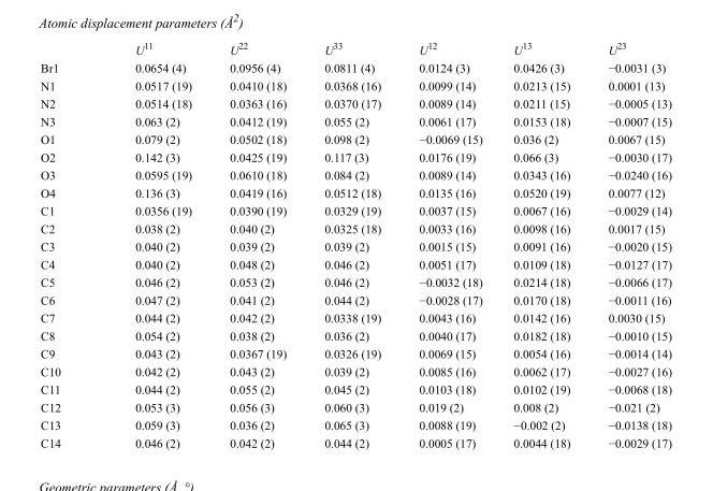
<table><thead><tr><td></td><td>U<sup>11</sup></td><td>U<sup>22</sup></td><td>U<sup>33</sup></td><td>U<sup>12</sup></td><td>U<sup>13</sup></td><td>U<sup>23</sup></td></tr></thead><tbody><tr><td>Br1</td><td>0.0654 (4)</td><td>0.0956 (4)</td><td>0.0811 (4)</td><td>0.0124 (3)</td><td>0.0426 (3)</td><td>−0.0031 (3)</td></tr><tr><td>N1</td><td>0.0517 (19)</td><td>0.0410 (18)</td><td>0.0368 (16)</td><td>0.0099 (14)</td><td>0.0213 (15)</td><td>0.0001 (13)</td></tr><tr><td>N2</td><td>0.0514 (18)</td><td>0.0363 (16)</td><td>0.0370 (17)</td><td>0.0089 (14)</td><td>0.0211 (15)</td><td>−0.0005 (13)</td></tr><tr><td>N3</td><td>0.063 (2)</td><td>0.0412 (19)</td><td>0.055 (2)</td><td>0.0061 (17)</td><td>0.0153 (18)</td><td>−0.0007 (15)</td></tr><tr><td>O1</td><td>0.079 (2)</td><td>0.0502 (18)</td><td>0.098 (2)</td><td>−0.0069 (15)</td><td>0.036 (2)</td><td>0.0067 (15)</td></tr><tr><td>O2</td><td>0.142 (3)</td><td>0.0425 (19)</td><td>0.117 (3)</td><td>0.0176 (19)</td><td>0.066 (3)</td><td>−0.0030 (17)</td></tr><tr><td>O3</td><td>0.0595 (19)</td><td>0.0610 (18)</td><td>0.084 (2)</td><td>0.0089 (14)</td><td>0.0343 (16)</td><td>−0.0240 (16)</td></tr><tr><td>O4</td><td>0.136 (3)</td><td>0.0419 (16)</td><td>0.0512 (18)</td><td>0.0135 (16)</td><td>0.0520 (19)</td><td>0.0077 (12)</td></tr><tr><td>C1</td><td>0.0356 (19)</td><td>0.0390 (19)</td><td>0.0329 (19)</td><td>0.0037 (15)</td><td>0.0067 (16)</td><td>−0.0029 (14)</td></tr><tr><td>C2</td><td>0.038 (2)</td><td>0.040 (2)</td><td>0.0325 (18)</td><td>0.0033 (16)</td><td>0.0098 (16)</td><td>0.0017 (15)</td></tr><tr><td>C3</td><td>0.040 (2)</td><td>0.039 (2)</td><td>0.039 (2)</td><td>0.0015 (15)</td><td>0.0091 (16)</td><td>−0.0020 (15)</td></tr><tr><td>C4</td><td>0.040 (2)</td><td>0.048 (2)</td><td>0.046 (2)</td><td>0.0051 (17)</td><td>0.0109 (18)</td><td>−0.0127 (17)</td></tr><tr><td>C5</td><td>0.046 (2)</td><td>0.053 (2)</td><td>0.046 (2)</td><td>−0.0032 (18)</td><td>0.0214 (18)</td><td>−0.0066 (17)</td></tr><tr><td>C6</td><td>0.047 (2)</td><td>0.041 (2)</td><td>0.044 (2)</td><td>−0.0028 (17)</td><td>0.0170 (18)</td><td>−0.0011 (16)</td></tr><tr><td>C7</td><td>0.044 (2)</td><td>0.042 (2)</td><td>0.0338 (19)</td><td>0.0043 (16)</td><td>0.0142 (16)</td><td>0.0030 (15)</td></tr><tr><td>C8</td><td>0.054 (2)</td><td>0.038 (2)</td><td>0.036 (2)</td><td>0.0040 (17)</td><td>0.0182 (18)</td><td>−0.0010 (15)</td></tr><tr><td>C9</td><td>0.043 (2)</td><td>0.0367 (19)</td><td>0.0326 (19)</td><td>0.0069 (15)</td><td>0.0054 (16)</td><td>−0.0014 (14)</td></tr><tr><td>C10</td><td>0.042 (2)</td><td>0.043 (2)</td><td>0.039 (2)</td><td>0.0085 (16)</td><td>0.0062 (17)</td><td>−0.0027 (16)</td></tr><tr><td>C11</td><td>0.044 (2)</td><td>0.055 (2)</td><td>0.045 (2)</td><td>0.0103 (18)</td><td>0.0102 (19)</td><td>−0.0068 (18)</td></tr><tr><td>C12</td><td>0.053 (3)</td><td>0.056 (3)</td><td>0.060 (3)</td><td>0.019 (2)</td><td>0.008 (2)</td><td>−0.021 (2)</td></tr><tr><td>C13</td><td>0.059 (3)</td><td>0.036 (2)</td><td>0.065 (3)</td><td>0.0088 (19)</td><td>−0.002 (2)</td><td>−0.0138 (18)</td></tr><tr><td>C14</td><td>0.046 (2)</td><td>0.042 (2)</td><td>0.044 (2)</td><td>0.0005 (17)</td><td>0.0044 (18)</td><td>−0.0029 (17)</td></tr></tbody></table>